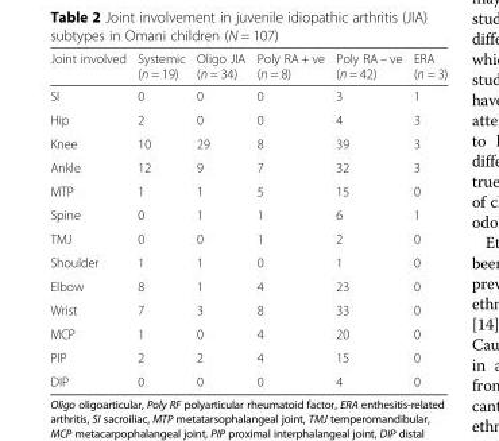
<table><thead><tr><td>Joint involved</td><td>Systemic (n = 19)</td><td>Oligo JIA (n = 34)</td><td>Poly RA + ve (n = 8)</td><td>Poly RA – ve (n = 42)</td><td>ERA (n = 3)</td></tr></thead><tbody><tr><td>SI</td><td>0</td><td>0</td><td>0</td><td>3</td><td>1</td></tr><tr><td>Hip</td><td>2</td><td>0</td><td>0</td><td>4</td><td>3</td></tr><tr><td>Knee</td><td>10</td><td>29</td><td>8</td><td>39</td><td>3</td></tr><tr><td>Ankle</td><td>12</td><td>9</td><td>7</td><td>32</td><td>3</td></tr><tr><td>MTP</td><td>1</td><td>1</td><td>5</td><td>15</td><td>0</td></tr><tr><td>Spine</td><td>0</td><td>1</td><td>1</td><td>6</td><td>1</td></tr><tr><td>TMJ</td><td>0</td><td>0</td><td>1</td><td>2</td><td>0</td></tr><tr><td>Shoulder</td><td>1</td><td>1</td><td>0</td><td>1</td><td>0</td></tr><tr><td>Elbow</td><td>8</td><td>1</td><td>4</td><td>23</td><td>0</td></tr><tr><td>Wrist</td><td>7</td><td>3</td><td>8</td><td>33</td><td>0</td></tr><tr><td>MCP</td><td>1</td><td>0</td><td>4</td><td>20</td><td>0</td></tr><tr><td>PIP</td><td>2</td><td>2</td><td>4</td><td>15</td><td>0</td></tr><tr><td>DIP</td><td>0</td><td>0</td><td>0</td><td>4</td><td>0</td></tr></tbody></table>